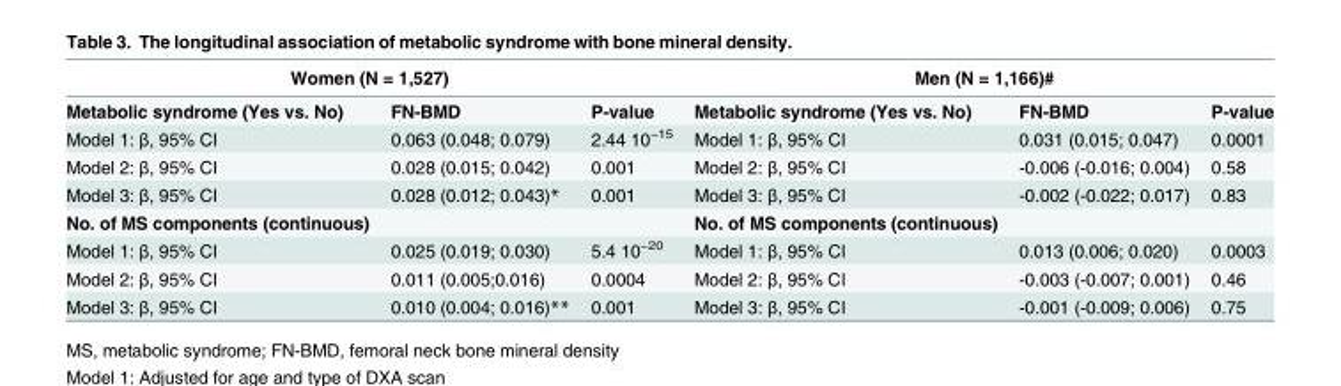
<table><thead><tr><td colspan="3">Women (N = 1,527)</td><td colspan="3">Men (N = 1,166)#</td></tr><tr><td>Metabolic syndrome (Yes vs. No)</td><td>FN-BMD</td><td>P-value</td><td>Metabolic syndrome (Yes vs. No)</td><td>FN-BMD</td><td>P-value</td></tr></thead><tbody><tr><td>Model 1: β, 95% CI</td><td>0.063 (0.048; 0.079)</td><td>2.44 10<sup>−15</sup></td><td>Model 1: β, 95% CI</td><td>0.031 (0.015; 0.047)</td><td>0.0001</td></tr><tr><td>Model 2: β, 95% CI</td><td>0.028 (0.015; 0.042)</td><td>0.001</td><td>Model 2: β, 95% CI</td><td>-0.006 (-0.016; 0.004)</td><td>0.58</td></tr><tr><td>Model 3: β, 95% CI</td><td>0.028 (0.012; 0.043)*</td><td>0.001</td><td>Model 3: β, 95% CI</td><td>-0.002 (-0.022; 0.017)</td><td>0.83</td></tr><tr><td>No. of MS components (continuous)</td><td></td><td></td><td>No. of MS components (continuous)</td><td></td><td></td></tr><tr><td>Model 1: β, 95% CI</td><td>0.025 (0.019; 0.030)</td><td>5.4 10<sup>−20</sup></td><td>Model 1: β, 95% CI</td><td>0.013 (0.006; 0.020)</td><td>0.0003</td></tr><tr><td>Model 2: β, 95% CI</td><td>0.011 (0.005;0.016)</td><td>0.0004</td><td>Model 2: β, 95% CI</td><td>-0.003 (-0.007; 0.001)</td><td>0.46</td></tr><tr><td>Model 3: β, 95% CI</td><td>0.010 (0.004; 0.016)**</td><td>0.001</td><td>Model 3: β, 95% CI</td><td>-0.001 (-0.009; 0.006)</td><td>0.75</td></tr></tbody></table>